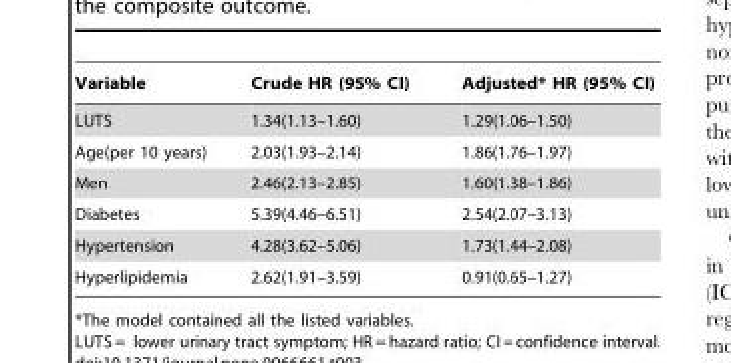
<table><thead><tr><td>Variable</td><td>Crude HR (95% CI)</td><td>Adjusted* HR (95% CI)</td></tr></thead><tbody><tr><td>LUTS</td><td>1.34(1.13–1.60)</td><td>1.29(1.06–1.50)</td></tr><tr><td>Age(per 10 years)</td><td>2.03(1.93–2.14)</td><td>1.86(1.76–1.97)</td></tr><tr><td>Men</td><td>2.46(2.13–2.85)</td><td>1.60(1.38–1.86)</td></tr><tr><td>Diabetes</td><td>5.39(4.46–6.51)</td><td>2.54(2.07–3.13)</td></tr><tr><td>Hypertension</td><td>4.28(3.62–5.06)</td><td>1.73(1.44–2.08)</td></tr><tr><td>Hyperlipidemia</td><td>2.62(1.91–3.59)</td><td>0.91(0.65–1.27)</td></tr></tbody></table>